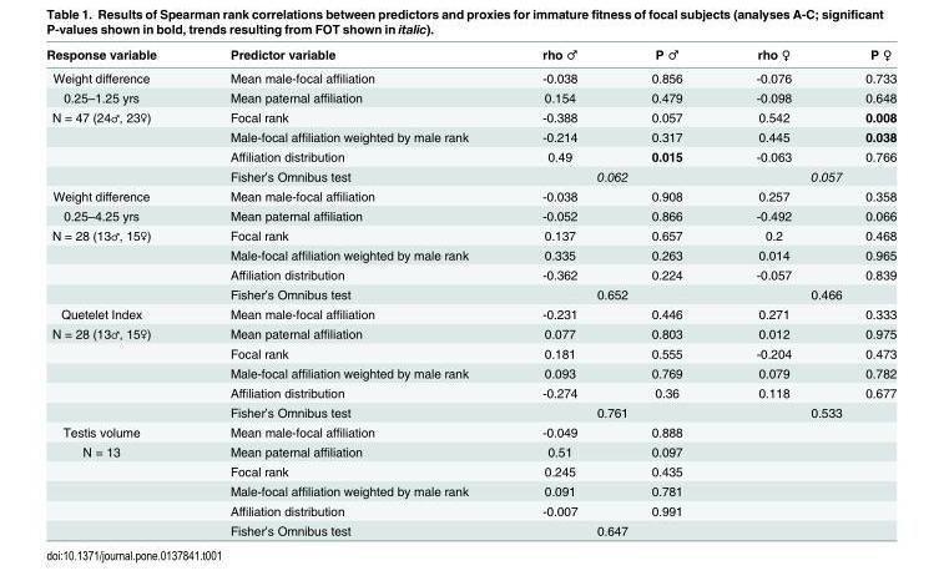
<table><thead><tr><td>Response variable</td><td>Predictor variable</td><td>rho ♂</td><td>P ♂</td><td>rho ♀</td><td>P ♀</td></tr></thead><tbody><tr><td>Weight difference</td><td>Mean male-focal affiliation</td><td>-0.038</td><td>0.856</td><td>-0.076</td><td>0.733</td></tr><tr><td>0.25–1.25 yrs</td><td>Mean paternal affiliation</td><td>0.154</td><td>0.479</td><td>-0.098</td><td>0.648</td></tr><tr><td rowspan="4">N = 47 (24♂, 23♀)</td><td>Focal rank</td><td>-0.388</td><td>0.057</td><td>0.542</td><td>0.008</td></tr><tr><td>Male-focal affiliation weighted by male rank</td><td>-0.214</td><td>0.317</td><td>0.445</td><td>0.038</td></tr><tr><td>Affiliation distribution</td><td>0.49</td><td>0.015</td><td>-0.063</td><td>0.766</td></tr><tr><td>Fisher’s Omnibus test</td><td colspan="2">0.062</td><td colspan="2">0.057</td></tr><tr><td>Weight difference</td><td>Mean male-focal affiliation</td><td>-0.038</td><td>0.908</td><td>0.257</td><td>0.358</td></tr><tr><td>0.25–4.25 yrs</td><td>Mean paternal affiliation</td><td>-0.052</td><td>0.866</td><td>-0.492</td><td>0.066</td></tr><tr><td rowspan="4">N = 28 (13♂, 15♀)</td><td>Focal rank</td><td>0.137</td><td>0.657</td><td>0.2</td><td>0.468</td></tr><tr><td>Male-focal affiliation weighted by male rank</td><td>0.335</td><td>0.263</td><td>0.014</td><td>0.965</td></tr><tr><td>Affiliation distribution</td><td>-0.362</td><td>0.224</td><td>-0.057</td><td>0.839</td></tr><tr><td>Fisher’s Omnibus test</td><td colspan="2">0.652</td><td colspan="2">0.466</td></tr><tr><td>Quetelet Index</td><td>Mean male-focal affiliation</td><td>-0.231</td><td>0.446</td><td>0.271</td><td>0.333</td></tr><tr><td rowspan="5">N = 28 (13♂, 15♀)</td><td>Mean paternal affiliation</td><td>0.077</td><td>0.803</td><td>0.012</td><td>0.975</td></tr><tr><td>Focal rank</td><td>0.181</td><td>0.555</td><td>-0.204</td><td>0.473</td></tr><tr><td>Male-focal affiliation weighted by male rank</td><td>0.093</td><td>0.769</td><td>0.079</td><td>0.782</td></tr><tr><td>Affiliation distribution</td><td>-0.274</td><td>0.36</td><td>0.118</td><td>0.677</td></tr><tr><td>Fisher’s Omnibus test</td><td colspan="2">0.761</td><td colspan="2">0.533</td></tr><tr><td>Testis volume</td><td>Mean male-focal affiliation</td><td>-0.049</td><td>0.888</td><td></td><td></td></tr><tr><td rowspan="5">N = 13</td><td>Mean paternal affiliation</td><td>0.51</td><td>0.097</td><td></td><td></td></tr><tr><td>Focal rank</td><td>0.245</td><td>0.435</td><td></td><td></td></tr><tr><td>Male-focal affiliation weighted by male rank</td><td>0.091</td><td>0.781</td><td></td><td></td></tr><tr><td>Affiliation distribution</td><td>-0.007</td><td>0.991</td><td></td><td></td></tr><tr><td>Fisher’s Omnibus test</td><td colspan="2">0.647</td><td></td><td></td></tr></tbody></table>